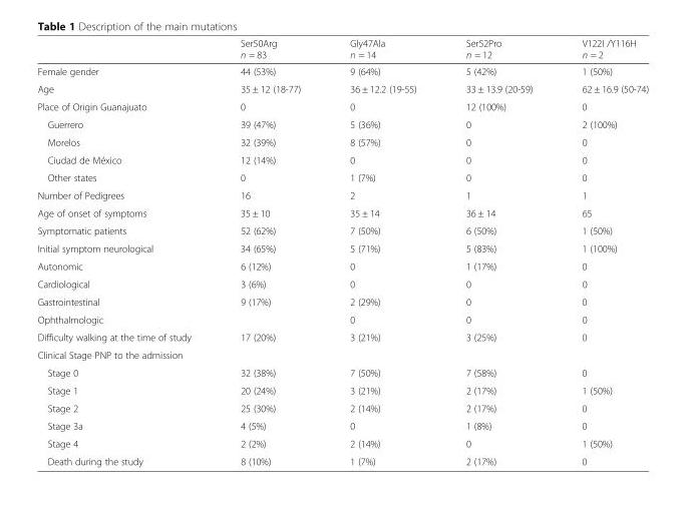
<table><thead><tr><td></td><td>Ser50Arg n = 83</td><td>Gly47Ala n = 14</td><td>Ser52Pro n = 12</td><td>V122I /Y116H n = 2</td></tr></thead><tbody><tr><td>Female gender</td><td>44 (53%)</td><td>9 (64%)</td><td>5 (42%)</td><td>1 (50%)</td></tr><tr><td>Age</td><td>35 ± 12 (18-77)</td><td>36 ± 12.2 (19-55)</td><td>33 ± 13.9 (20-59)</td><td>62 ± 16.9 (50-74)</td></tr><tr><td>Place of Origin Guanajuato</td><td>0</td><td>0</td><td>12 (100%)</td><td>0</td></tr><tr><td>Guerrero</td><td>39 (47%)</td><td>5 (36%)</td><td>0</td><td>2 (100%)</td></tr><tr><td>Morelos</td><td>32 (39%)</td><td>8 (57%)</td><td>0</td><td>0</td></tr><tr><td>Ciudad de México</td><td>12 (14%)</td><td>0</td><td>0</td><td>0</td></tr><tr><td>Other states</td><td>0</td><td>1 (7%)</td><td>0</td><td>0</td></tr><tr><td>Number of Pedigrees</td><td>16</td><td>2</td><td>1</td><td>1</td></tr><tr><td>Age of onset of symptoms</td><td>35 ± 10</td><td>35 ± 14</td><td>36 ± 14</td><td>65</td></tr><tr><td>Symptomatic patients</td><td>52 (62%)</td><td>7 (50%)</td><td>6 (50%)</td><td>1 (50%)</td></tr><tr><td>Initial symptom neurological</td><td>34 (65%)</td><td>5 (71%)</td><td>5 (83%)</td><td>1 (100%)</td></tr><tr><td>Autonomic</td><td>6 (12%)</td><td>0</td><td>1 (17%)</td><td>0</td></tr><tr><td>Cardiological</td><td>3 (6%)</td><td>0</td><td>0</td><td>0</td></tr><tr><td>Gastrointestinal</td><td>9 (17%)</td><td>2 (29%)</td><td>0</td><td>0</td></tr><tr><td>Ophthalmologic</td><td></td><td>0</td><td>0</td><td>0</td></tr><tr><td>Difficulty walking at the time of study</td><td>17 (20%)</td><td>3 (21%)</td><td>3 (25%)</td><td>0</td></tr><tr><td colspan="5">Clinical Stage PNP to the admission</td></tr><tr><td>Stage 0</td><td>32 (38%)</td><td>7 (50%)</td><td>7 (58%)</td><td>0</td></tr><tr><td>Stage 1</td><td>20 (24%)</td><td>3 (21%)</td><td>2 (17%)</td><td>1 (50%)</td></tr><tr><td>Stage 2</td><td>25 (30%)</td><td>2 (14%)</td><td>2 (17%)</td><td>0</td></tr><tr><td>Stage 3a</td><td>4 (5%)</td><td>0</td><td>1 (8%)</td><td>0</td></tr><tr><td>Stage 4</td><td>2 (2%)</td><td>2 (14%)</td><td>0</td><td>1 (50%)</td></tr><tr><td>Death during the study</td><td>8 (10%)</td><td>1 (7%)</td><td>2 (17%)</td><td>0</td></tr></tbody></table>